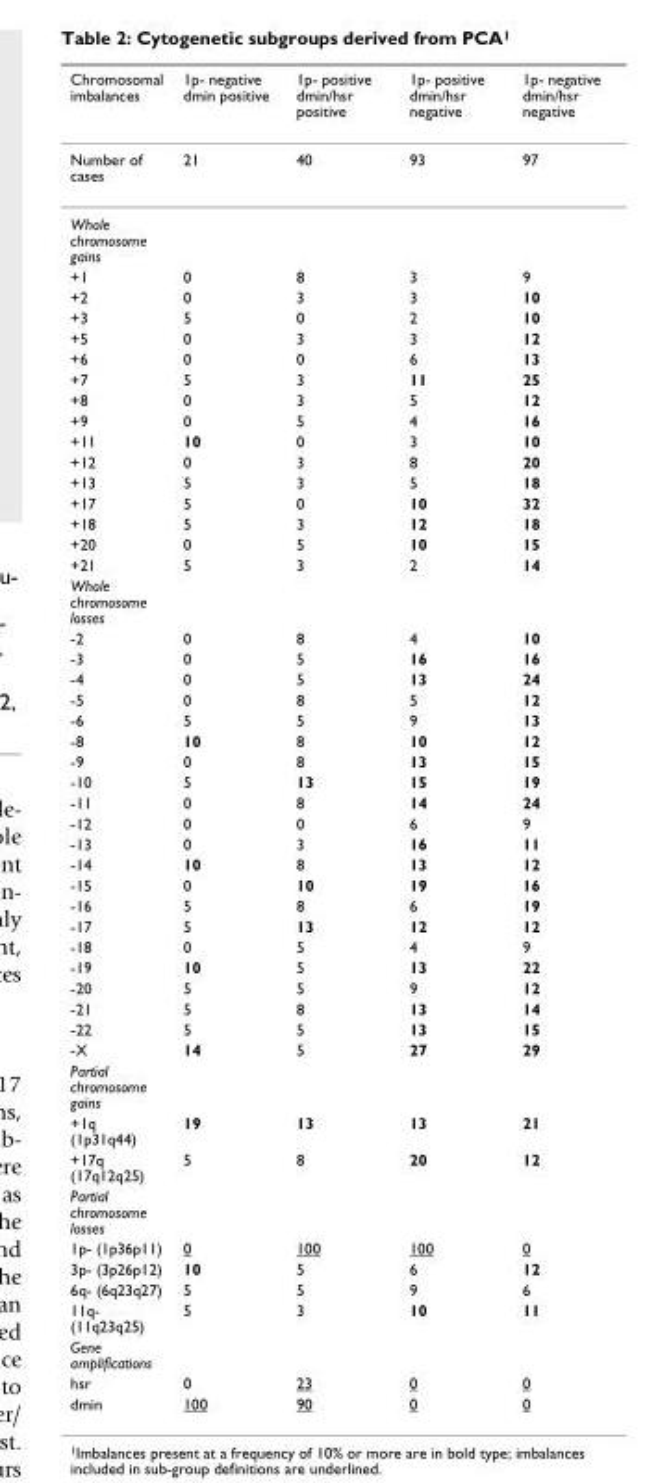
<table><thead><tr><td>Chromosomal imbalances</td><td>1p- negative dmin positive</td><td>1p- positive dmin/hsr positive</td><td>1p- positive dmin/hsr negative</td><td>1p- negative dmin/hsr negative</td></tr></thead><tbody><tr><td>Number of cases</td><td>21</td><td>40</td><td>93</td><td>97</td></tr><tr><td colspan="5">Whole chromosome gains</td></tr><tr><td>+1</td><td>0</td><td>8</td><td>3</td><td>9</td></tr><tr><td>+2</td><td>0</td><td>3</td><td>3</td><td>10</td></tr><tr><td>+3</td><td>5</td><td>0</td><td>2</td><td>10</td></tr><tr><td>+5</td><td>0</td><td>3</td><td>3</td><td>12</td></tr><tr><td>+6</td><td>0</td><td>0</td><td>6</td><td>13</td></tr><tr><td>+7</td><td>5</td><td>3</td><td>11</td><td>25</td></tr><tr><td>+8</td><td>0</td><td>3</td><td>5</td><td>12</td></tr><tr><td>+9</td><td>0</td><td>5</td><td>4</td><td>16</td></tr><tr><td>+11</td><td>10</td><td>0</td><td>3</td><td>10</td></tr><tr><td>+12</td><td>0</td><td>3</td><td>8</td><td>20</td></tr><tr><td>+13</td><td>5</td><td>3</td><td>5</td><td>18</td></tr><tr><td>+17</td><td>5</td><td>0</td><td>10</td><td>32</td></tr><tr><td>+18</td><td>5</td><td>3</td><td>12</td><td>18</td></tr><tr><td>+20</td><td>0</td><td>5</td><td>10</td><td>15</td></tr><tr><td>+21</td><td>5</td><td>3</td><td>2</td><td>14</td></tr><tr><td colspan="5">Whole chromosome losses</td></tr><tr><td>-2</td><td>0</td><td>8</td><td>4</td><td>10</td></tr><tr><td>-3</td><td>0</td><td>5</td><td>16</td><td>16</td></tr><tr><td>-4</td><td>0</td><td>5</td><td>13</td><td>24</td></tr><tr><td>-5</td><td>0</td><td>8</td><td>5</td><td>12</td></tr><tr><td>-6</td><td>5</td><td>5</td><td>9</td><td>13</td></tr><tr><td>-8</td><td>10</td><td>8</td><td>10</td><td>12</td></tr><tr><td>-9</td><td>0</td><td>8</td><td>13</td><td>15</td></tr><tr><td>-10</td><td>5</td><td>13</td><td>15</td><td>19</td></tr><tr><td>-11</td><td>0</td><td>8</td><td>14</td><td>24</td></tr><tr><td>-12</td><td>0</td><td>0</td><td>6</td><td>9</td></tr><tr><td>-13</td><td>0</td><td>3</td><td>16</td><td>11</td></tr><tr><td>-14</td><td>10</td><td>8</td><td>13</td><td>12</td></tr><tr><td>-15</td><td>0</td><td>10</td><td>19</td><td>16</td></tr><tr><td>-16</td><td>5</td><td>8</td><td>6</td><td>19</td></tr><tr><td>-17</td><td>5</td><td>13</td><td>12</td><td>12</td></tr><tr><td>-18</td><td>0</td><td>5</td><td>4</td><td>9</td></tr><tr><td>-19</td><td>10</td><td>5</td><td>13</td><td>22</td></tr><tr><td>-20</td><td>5</td><td>5</td><td>9</td><td>12</td></tr><tr><td>-21</td><td>5</td><td>8</td><td>13</td><td>14</td></tr><tr><td>-22</td><td>5</td><td>5</td><td>13</td><td>15</td></tr><tr><td>-X</td><td>14</td><td>5</td><td>27</td><td>29</td></tr><tr><td colspan="5">Partial chromosome gains</td></tr><tr><td>+1q (1p31q44)</td><td>19</td><td>13</td><td>13</td><td>21</td></tr><tr><td>+17q (17q12q25)</td><td>5</td><td>8</td><td>20</td><td>12</td></tr><tr><td colspan="5">Partial chromosome losses</td></tr><tr><td>1p- (1p36p11)</td><td>0</td><td>100</td><td>100</td><td>0</td></tr><tr><td>3p- (3p26p12)</td><td>10</td><td>5</td><td>6</td><td>12</td></tr><tr><td>6q- (6q23q27)</td><td>5</td><td>5</td><td>9</td><td>6</td></tr><tr><td>11q- (11q23q25)</td><td>5</td><td>3</td><td>10</td><td>11</td></tr><tr><td colspan="5">Gene amplifications</td></tr><tr><td>hsr</td><td>0</td><td>23</td><td>0</td><td>0</td></tr><tr><td>dmin</td><td>100</td><td>90</td><td>0</td><td>0</td></tr></tbody></table>